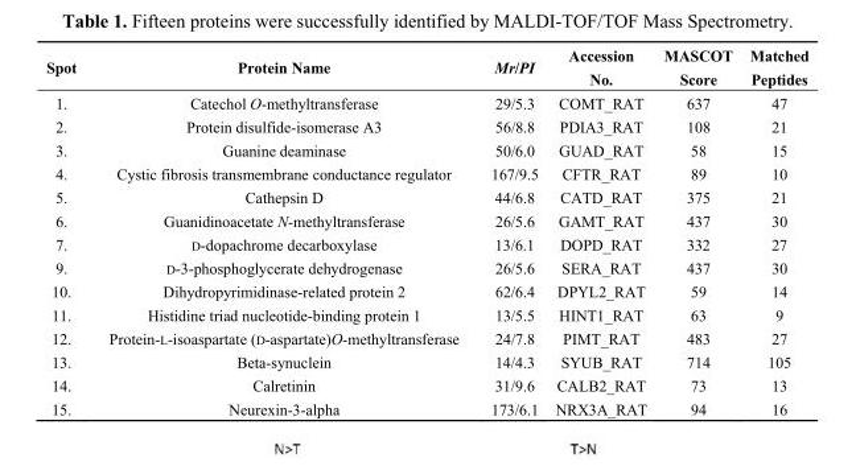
<table><thead><tr><td>Spot</td><td>Protein Name</td><td>Mr/PI</td><td>Accession No.</td><td>MASCOT Score</td><td>Matched Peptides</td></tr></thead><tbody><tr><td>1.</td><td>Catechol O-methyltransferase</td><td>29/5.3</td><td>COMT_RAT</td><td>637</td><td>47</td></tr><tr><td>2.</td><td>Protein disulfide-isomerase A3</td><td>56/8.8</td><td>PDIA3_RAT</td><td>108</td><td>21</td></tr><tr><td>3.</td><td>Guanine deaminase</td><td>50/6.0</td><td>GUAD_RAT</td><td>58</td><td>15</td></tr><tr><td>4.</td><td>Cystic fibrosis transmembrane conductance regulator</td><td>167/9.5</td><td>CFTR_RAT</td><td>89</td><td>10</td></tr><tr><td>5.</td><td>Cathepsin D</td><td>44/6.8</td><td>CATD_RAT</td><td>375</td><td>21</td></tr><tr><td>6.</td><td>Guanidinoacetate N-methyltransferase</td><td>26/5.6</td><td>GAMT_RAT</td><td>437</td><td>30</td></tr><tr><td>7.</td><td>D-dopachrome decarboxylase</td><td>13/6.1</td><td>DOPD_RAT</td><td>332</td><td>27</td></tr><tr><td>9.</td><td>D-3-phosphoglycerate dehydrogenase</td><td>26/5.6</td><td>SERA_RAT</td><td>437</td><td>30</td></tr><tr><td>10.</td><td>Dihydropyrimidinase-related protein 2</td><td>62/6.4</td><td>DPYL2_RAT</td><td>59</td><td>14</td></tr><tr><td>11.</td><td>Histidine triad nucleotide-binding protein 1</td><td>13/5.5</td><td>HINT1_RAT</td><td>63</td><td>9</td></tr><tr><td>12.</td><td>Protein-L-isoaspartate (D-aspartate)O-methyltransferase</td><td>24/7.8</td><td>PIMT_RAT</td><td>483</td><td>27</td></tr><tr><td>13.</td><td>Beta-synuclein</td><td>14/4.3</td><td>SYUB_RAT</td><td>714</td><td>105</td></tr><tr><td>14.</td><td>Calretinin</td><td>31/9.6</td><td>CALB2_RAT</td><td>73</td><td>13</td></tr><tr><td>15.</td><td>Neurexin-3-alpha</td><td>173/6.1</td><td>NRX3A_RAT</td><td>94</td><td>16</td></tr></tbody></table>